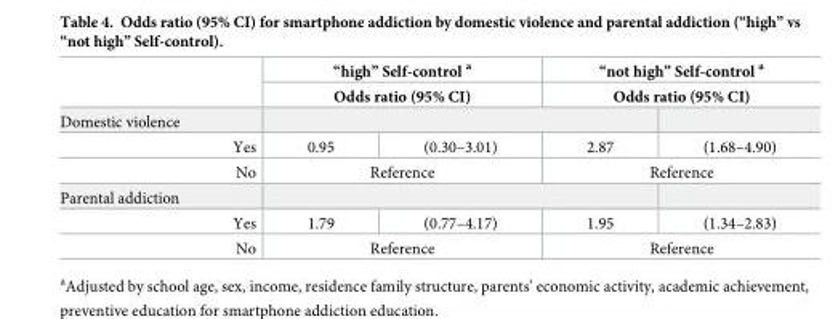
<table><thead><tr><td rowspan="4">Domestic violence Yes</td><td rowspan="2" colspan="2">“high” Self-control <sup>a</sup> Odds ratio (95% CI)</td><td rowspan="2" colspan="2">“not high” Self-control <sup>a</sup> Odds ratio (95% CI)</td></tr><tr></tr><tr><td colspan="3"></td><td rowspan="2">(1.68–4.90)</td></tr><tr><td>0.95</td><td>(0.30–3.01)</td><td>2.87</td></tr></thead><tbody><tr><td>No</td><td colspan="2">Reference</td><td colspan="2">Reference</td></tr><tr><td colspan="5">Parental addiction</td></tr><tr><td>Yes</td><td>1.79</td><td>(0.77–4.17)</td><td>1.95</td><td>(1.34–2.83)</td></tr><tr><td>No</td><td colspan="2">Reference</td><td colspan="2">Reference</td></tr></tbody></table>